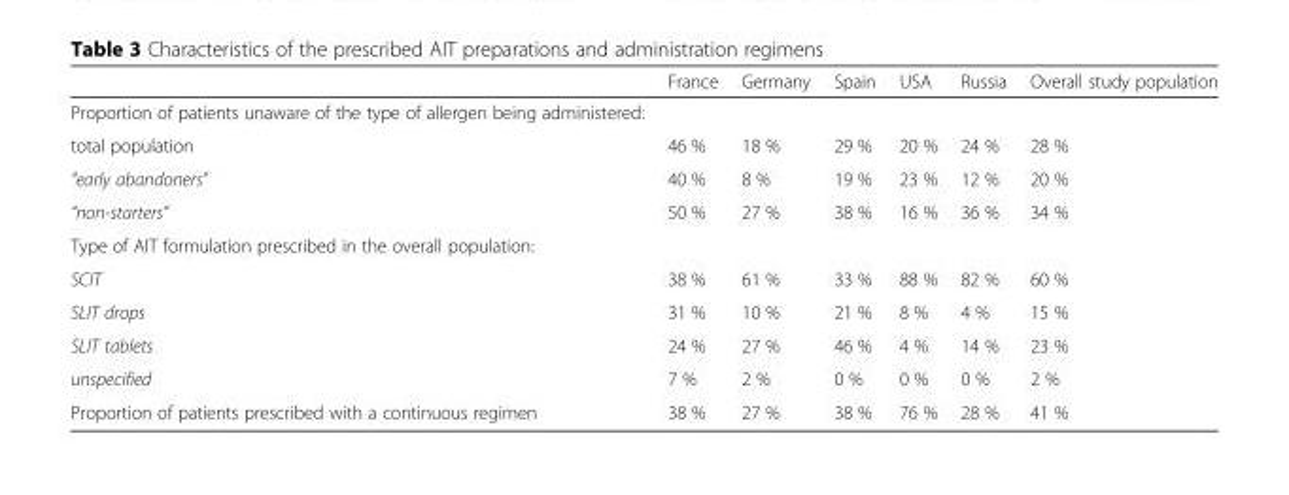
<table><thead><tr><td></td><td>France</td><td>Germany</td><td>Spain</td><td>USA</td><td>Russia</td><td>Overall study population</td></tr></thead><tbody><tr><td colspan="7">Proportion of patients unaware of the type of allergen being administered:</td></tr><tr><td>total population</td><td>46 %</td><td>18 %</td><td>29 %</td><td>20 %</td><td>24 %</td><td>28 %</td></tr><tr><td>“early abandoners”</td><td>40 %</td><td>8 %</td><td>19 %</td><td>23 %</td><td>12 %</td><td>20 %</td></tr><tr><td>“non-starters”</td><td>50 %</td><td>27 %</td><td>38 %</td><td>16 %</td><td>36 %</td><td>34 %</td></tr><tr><td colspan="7">Type of AIT formulation prescribed in the overall population:</td></tr><tr><td>SCIT</td><td>38 %</td><td>61 %</td><td>33 %</td><td>88 %</td><td>82 %</td><td>60 %</td></tr><tr><td>SLIT drops</td><td>31 %</td><td>10 %</td><td>21 %</td><td>8 %</td><td>4 %</td><td>15 %</td></tr><tr><td>SLIT tablets</td><td>24 %</td><td>27 %</td><td>46 %</td><td>4 %</td><td>14 %</td><td>23 %</td></tr><tr><td>unspecified</td><td>7 %</td><td>2 %</td><td>0 %</td><td>0 %</td><td>0 %</td><td>2 %</td></tr><tr><td>Proportion of patients prescribed with a continuous regimen</td><td>38 %</td><td>27 %</td><td>38 %</td><td>76 %</td><td>28 %</td><td>41 %</td></tr></tbody></table>